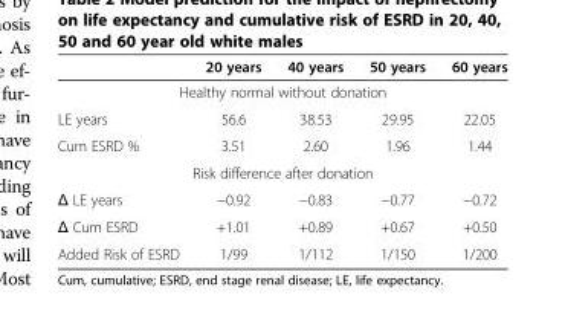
<table><thead><tr><td></td><td>20 years</td><td>40 years</td><td>50 years</td><td>60 years</td></tr></thead><tbody><tr><td colspan="5">Healthy normal without donation</td></tr><tr><td>LE years</td><td>56.6</td><td>38.53</td><td>29.95</td><td>22.05</td></tr><tr><td>Cum ESRD %</td><td>3.51</td><td>2.60</td><td>1.96</td><td>1.44</td></tr><tr><td colspan="5">Risk difference after donation</td></tr><tr><td>Δ LE years</td><td>−0.92</td><td>−0.83</td><td>−0.77</td><td>−0.72</td></tr><tr><td>Δ Cum ESRD</td><td>+1.01</td><td>+0.89</td><td>+0.67</td><td>+0.50</td></tr><tr><td>Added Risk of ESRD</td><td>1/99</td><td>1/112</td><td>1/150</td><td>1/200</td></tr></tbody></table>